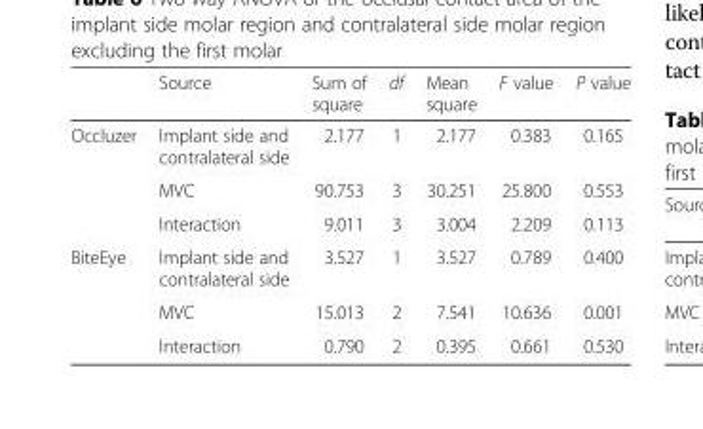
<table><thead><tr><td></td><td>Source</td><td>Sum of square</td><td>df</td><td>Mean square</td><td>F value</td><td>P value</td></tr></thead><tbody><tr><td rowspan="3">Occluzer</td><td>Implant side and contralateral side</td><td>2.177</td><td>1</td><td>2.177</td><td>0.383</td><td>0.165</td></tr><tr><td>MVC</td><td>90.753</td><td>3</td><td>30.251</td><td>25.800</td><td>0.553</td></tr><tr><td>Interaction</td><td>9.011</td><td>3</td><td>3.004</td><td>2.209</td><td>0.113</td></tr><tr><td rowspan="3">BiteEye</td><td>Implant side and contralateral side</td><td>3.527</td><td>1</td><td>3.527</td><td>0.789</td><td>0.400</td></tr><tr><td>MVC</td><td>15.013</td><td>2</td><td>7.541</td><td>10.636</td><td>0.001</td></tr><tr><td>Interaction</td><td>0.790</td><td>2</td><td>0.395</td><td>0.661</td><td>0.530</td></tr></tbody></table>